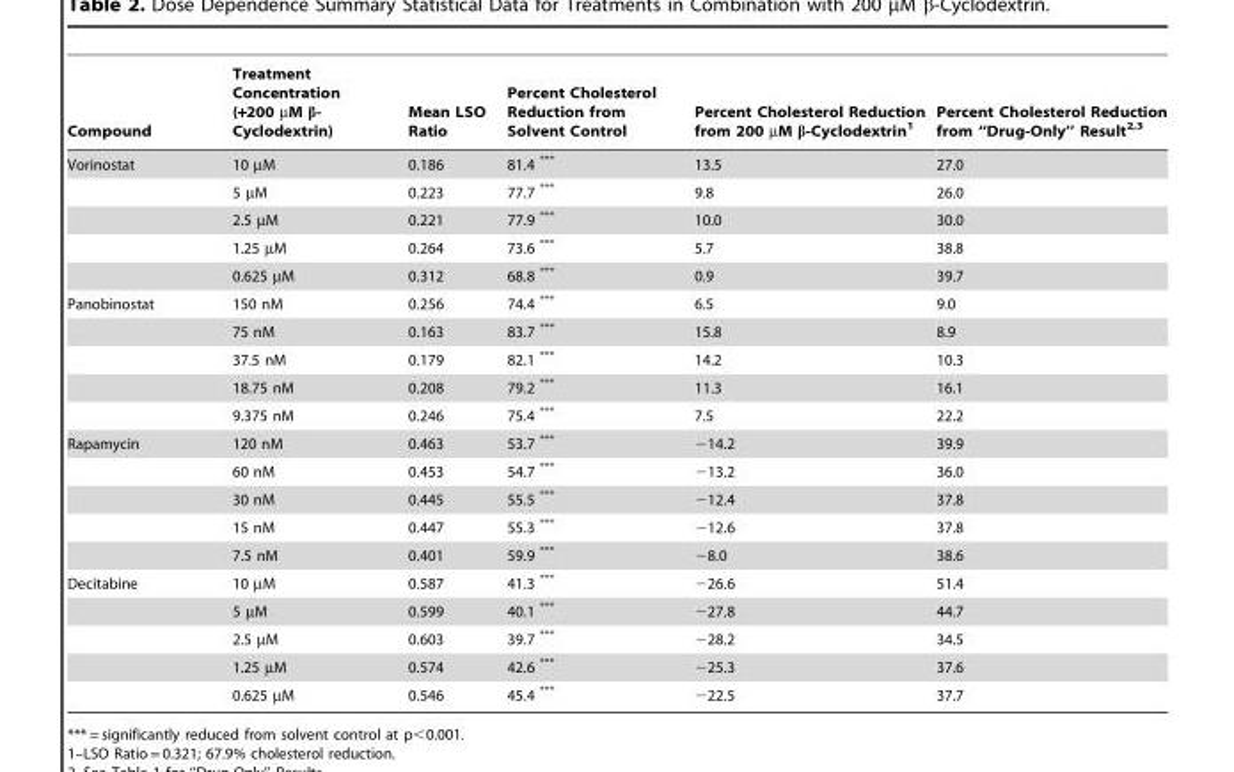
<table><thead><tr><td>Compound</td><td>Treatment Concentration (+200 µM β- Cyclodextrin)</td><td>Mean LSO Ratio</td><td>Percent Cholesterol Reduction from Solvent Control</td><td>Percent Cholesterol Reduction from 200 µM β-Cyclodextrin<sup>1</sup></td><td>Percent Cholesterol Reduction from ‘‘Drug-Only’’ Result2,3</td></tr></thead><tbody><tr><td rowspan="5">Vorinostat</td><td>10 µM</td><td>0.186</td><td>81.4 ***</td><td>13.5</td><td>27.0</td></tr><tr><td>5 µM</td><td>0.223</td><td>77.7 ***</td><td>9.8</td><td>26.0</td></tr><tr><td>2.5 µM</td><td>0.221</td><td>77.9 ***</td><td>10.0</td><td>30.0</td></tr><tr><td>1.25 µM</td><td>0.264</td><td>73.6 ***</td><td>5.7</td><td>38.8</td></tr><tr><td>0.625 µM</td><td>0.312</td><td>68.8 ***</td><td>0.9</td><td>39.7</td></tr><tr><td rowspan="5">Panobinostat</td><td>150 nM</td><td>0.256</td><td>74.4 ***</td><td>6.5</td><td>9.0</td></tr><tr><td>75 nM</td><td>0.163</td><td>83.7 ***</td><td>15.8</td><td>8.9</td></tr><tr><td>37.5 nM</td><td>0.179</td><td>82.1 ***</td><td>14.2</td><td>10.3</td></tr><tr><td>18.75 nM</td><td>0.208</td><td>79.2 ***</td><td>11.3</td><td>16.1</td></tr><tr><td>9.375 nM</td><td>0.246</td><td>75.4 ***</td><td>7.5</td><td>22.2</td></tr><tr><td rowspan="5">Rapamycin</td><td>120 nM</td><td>0.463</td><td>53.7 ***</td><td>−14.2</td><td>39.9</td></tr><tr><td>60 nM</td><td>0.453</td><td>54.7 ***</td><td>−13.2</td><td>36.0</td></tr><tr><td>30 nM</td><td>0.445</td><td>55.5 ***</td><td>−12.4</td><td>37.8</td></tr><tr><td>15 nM</td><td>0.447</td><td>55.3 ***</td><td>−12.6</td><td>37.8</td></tr><tr><td>7.5 nM</td><td>0.401</td><td>59.9 ***</td><td>−8.0</td><td>38.6</td></tr><tr><td rowspan="5">Decitabine</td><td>10 µM</td><td>0.587</td><td>41.3 ***</td><td>−26.6</td><td>51.4</td></tr><tr><td>5 µM</td><td>0.599</td><td>40.1 ***</td><td>−27.8</td><td>44.7</td></tr><tr><td>2.5 µM</td><td>0.603</td><td>39.7 ***</td><td>−28.2</td><td>34.5</td></tr><tr><td>1.25 µM</td><td>0.574</td><td>42.6 ***</td><td>−25.3</td><td>37.6</td></tr><tr><td>0.625 µM</td><td>0.546</td><td>45.4 ***</td><td>−22.5</td><td>37.7</td></tr></tbody></table>